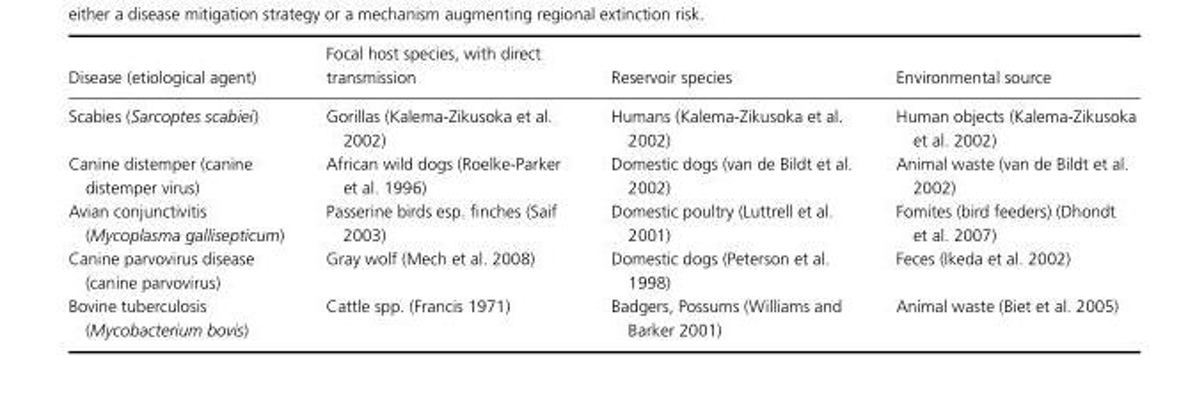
<table><thead><tr><td>Disease (etiological agent)</td><td>transmission</td><td>Reservoir species</td><td>Environmental source</td></tr></thead><tbody><tr><td>Scabies (Sarcoptes scabiei)</td><td>Gorillas (Kalema-Zikusoka et al. 2002)</td><td>Humans (Kalema-Zikusoka et al. 2002)</td><td>Human objects (Kalema-Zikusoka et al. 2002)</td></tr><tr><td>Canine distemper (canine distemper virus)</td><td>African wild dogs (Roelke-Parker et al. 1996)</td><td>Domestic dogs (van de Bildt et al. 2002)</td><td>Animal waste (van de Bildt et al. 2002)</td></tr><tr><td>Avian conjunctivitis (Mycoplasma gallisepticum)</td><td>Passerine birds esp. finches (Saif 2003)</td><td>Domestic poultry (Luttrell et al. 2001)</td><td>Fomites (bird feeders) (Dhondt et al. 2007)</td></tr><tr><td>Canine parvovirus disease (canine parvovirus)</td><td>Gray wolf (Mech et al. 2008)</td><td>Domestic dogs (Peterson et al. 1998)</td><td>Feces (Ikeda et al. 2002)</td></tr><tr><td>Bovine tuberculosis (Mycobacterium bovis)</td><td>Cattle spp. (Francis 1971)</td><td>Badgers, Possums (Williams and Barker 2001)</td><td>Animal waste (Biet et al. 2005)</td></tr></tbody></table>